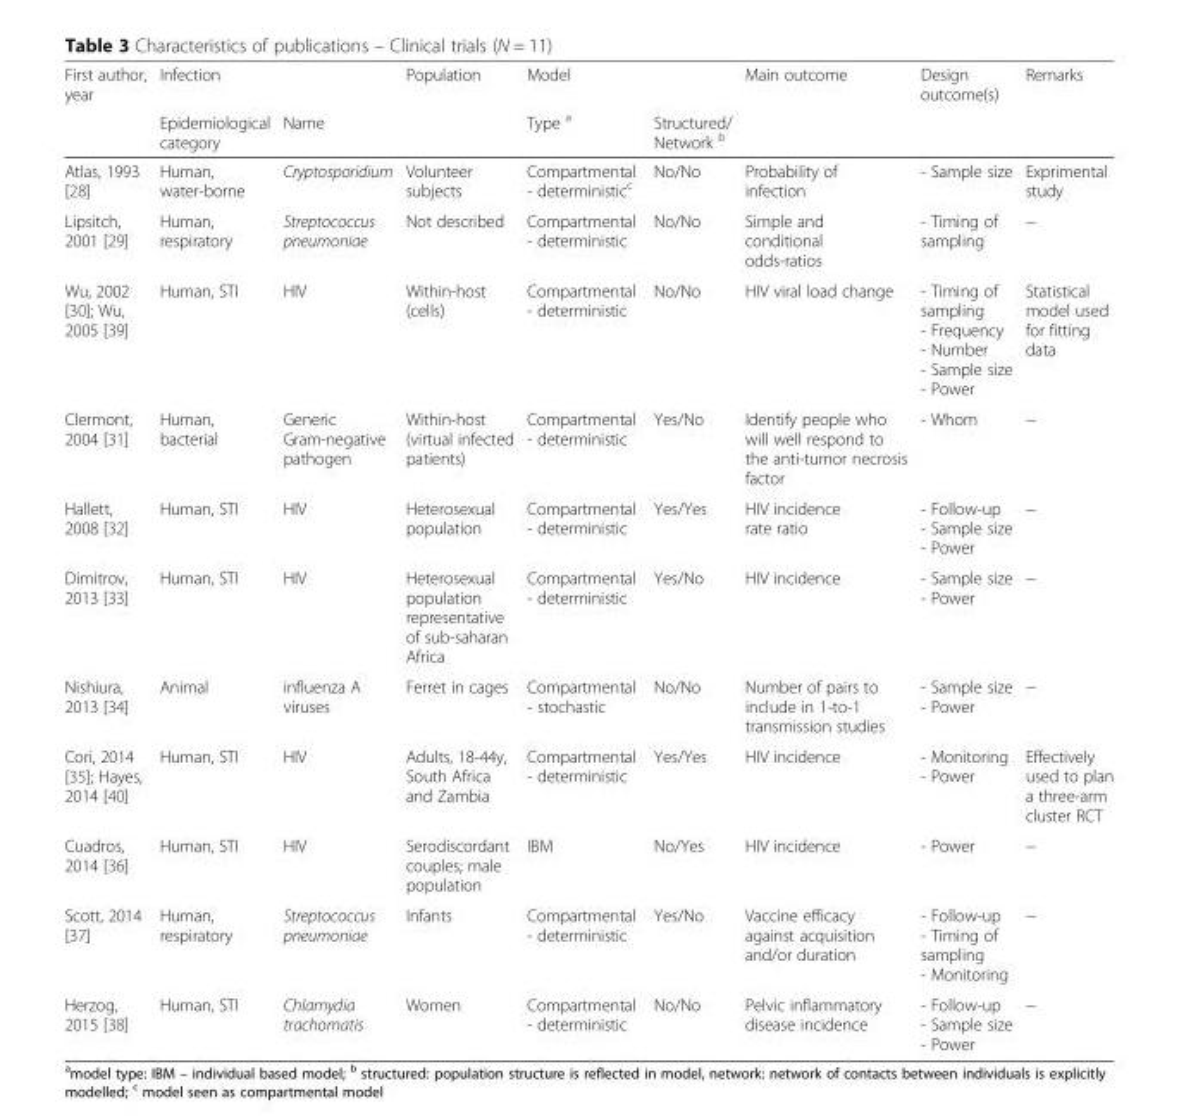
<table><thead><tr><td rowspan="2">First author, year</td><td rowspan="2">Infection Epidemiological category</td><td rowspan="2">Name</td><td rowspan="2">Population</td><td rowspan="2">Model Type <sup>a</sup></td><td rowspan="2">Structured/ Network <sup>b</sup></td><td rowspan="2">Main outcome</td><td rowspan="2">Design outcome(s)</td><td rowspan="2">Remarks</td></tr><tr></tr></thead><tbody><tr><td>Atlas, 1993 [28]</td><td>Human, water-borne</td><td>Cryptosporidium</td><td>Volunteer subjects</td><td>Compartmental - deterministic<sup>c</sup></td><td>No/No</td><td>Probability of infection</td><td>- Sample size</td><td>Exprimental study</td></tr><tr><td>Lipsitch, 2001 [29]</td><td>Human, respiratory</td><td>Streptococcus pneumoniae</td><td>Not described</td><td>Compartmental - deterministic</td><td>No/No</td><td>Simple and conditional odds-ratios</td><td>- Timing of sampling</td><td>−</td></tr><tr><td>Wu, 2002 [30]; Wu, 2005 [39]</td><td>Human, STI</td><td>HIV</td><td>Within-host (cells)</td><td>Compartmental - deterministic</td><td>No/No</td><td>HIV viral load change</td><td>- Timing of sampling - Frequency - Number - Sample size - Power</td><td>Statistical model used for fitting data</td></tr><tr><td>Clermont, 2004 [31]</td><td>Human, bacterial</td><td>Generic Gram-negative pathogen</td><td>Within-host (virtual infected patients)</td><td>Compartmental - deterministic</td><td>Yes/No</td><td>Identify people who will well respond to the anti-tumor necrosis factor</td><td>- Whom</td><td>−</td></tr><tr><td>Hallett, 2008 [32]</td><td>Human, STI</td><td>HIV</td><td>Heterosexual population</td><td>Compartmental - deterministic</td><td>Yes/Yes</td><td>HIV incidence rate ratio</td><td>- Follow-up - Sample size - Power</td><td>−</td></tr><tr><td>Dimitrov, 2013 [33]</td><td>Human, STI</td><td>HIV</td><td>Heterosexual population representative of sub-saharan Africa</td><td>Compartmental - deterministic</td><td>Yes/No</td><td>HIV incidence</td><td>- Sample size - Power</td><td>−</td></tr><tr><td>Nishiura, 2013 [34]</td><td>Animal</td><td>influenza A viruses</td><td>Ferret in cages</td><td>Compartmental - stochastic</td><td>No/No</td><td>Number of pairs to include in 1-to-1 transmission studies</td><td>- Sample size - Power</td><td>−</td></tr><tr><td>Cori, 2014 [35]; Hayes, 2014 [40]</td><td>Human, STI</td><td>HIV</td><td>Adults, 18-44y, South Africa and Zambia</td><td>Compartmental - deterministic</td><td>Yes/Yes</td><td>HIV incidence</td><td>- Monitoring - Power</td><td>Effectively used to plan a three-arm cluster RCT</td></tr><tr><td>Cuadros, 2014 [36]</td><td>Human, STI</td><td>HIV</td><td>Serodiscordant couples; male population</td><td>IBM</td><td>No/Yes</td><td>HIV incidence</td><td>- Power</td><td>−</td></tr><tr><td>Scott, 2014 [37]</td><td>Human, respiratory</td><td>Streptococcus pneumoniae</td><td>Infants</td><td>Compartmental - deterministic</td><td>Yes/No</td><td>Vaccine efficacy against acquisition and/or duration</td><td>- Follow-up - Timing of sampling - Monitoring</td><td>−</td></tr><tr><td>Herzog, 2015 [38]</td><td>Human, STI</td><td>Chlamydia trachomatis</td><td>Women</td><td>Compartmental - deterministic</td><td>No/No</td><td>Pelvic inflammatory disease incidence</td><td>- Follow-up - Sample size - Power</td><td>−</td></tr></tbody></table>